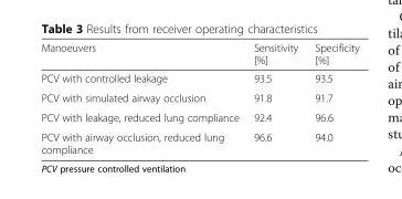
<table><thead><tr><td>Manoeuvers</td><td>Sensitivity [%]</td><td>Specificity [%]</td></tr></thead><tbody><tr><td>PCV with controlled leakage</td><td>93.5</td><td>93.5</td></tr><tr><td>PCV with simulated airway occlusion</td><td>91.8</td><td>91.7</td></tr><tr><td>PCV with leakage, reduced lung compliance</td><td>92.4</td><td>96.6</td></tr><tr><td>PCV with airway occlusion, reduced lung compliance</td><td>96.6</td><td>94.0</td></tr></tbody></table>